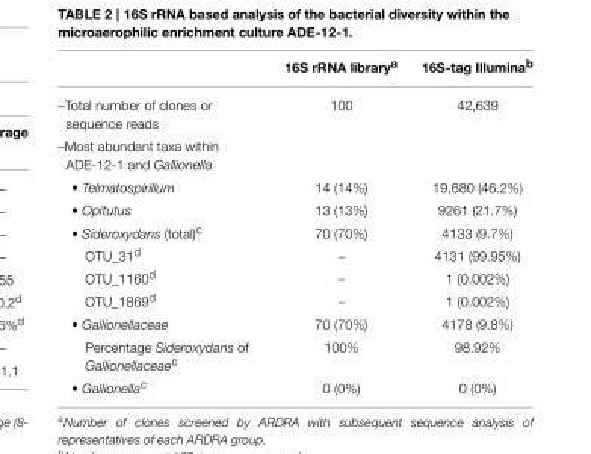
<table><thead><tr><td></td><td>16S rRNA library<sup>a</sup></td><td>16S-tag Illumina<sup>b</sup></td></tr></thead><tbody><tr><td>–Total number of clones or sequence reads</td><td>100</td><td>42,639</td></tr><tr><td colspan="3">–Most abundant taxa within ADE-12-1 and Gallionella</td></tr><tr><td>• Telmatospirillum</td><td>14 (14%)</td><td>19,680 (46.2%)</td></tr><tr><td>• Opitutus</td><td>13 (13%)</td><td>9261 (21.7%)</td></tr><tr><td>• Sideroxydans (total)<sup>c</sup></td><td>70 (70%)</td><td>4133 (9.7%)</td></tr><tr><td>OTU_31<sup>d</sup></td><td>–</td><td>4131 (99.95%)</td></tr><tr><td>OTU_1160<sup>d</sup></td><td>–</td><td>1 (0.002%)</td></tr><tr><td>OTU_1869<sup>d</sup></td><td>–</td><td>1 (0.002%)</td></tr><tr><td>• Gallionellaceae</td><td>70 (70%)</td><td>4178 (9.8%)</td></tr><tr><td>Percentage Sideroxydans of Gallionellaceae<sup>c</sup></td><td>100%</td><td>98.92%</td></tr><tr><td>• Gallionella<sup>c</sup></td><td>0 (0%)</td><td>0 (0%)</td></tr></tbody></table>